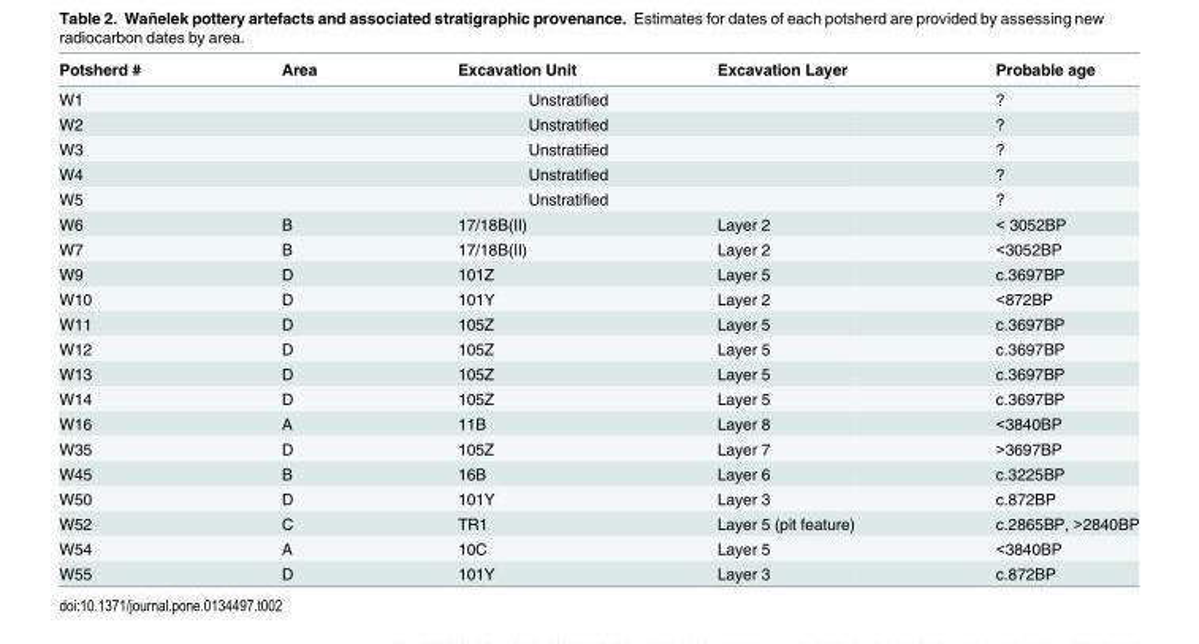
<table><thead><tr><td>Potsherd #</td><td>Area</td><td>Excavation Unit</td><td>Excavation Layer</td><td>Probable age</td></tr></thead><tbody><tr><td>W1</td><td colspan="3">Unstratified</td><td>?</td></tr><tr><td>W2</td><td colspan="3">Unstratified</td><td>?</td></tr><tr><td>W3</td><td colspan="3">Unstratified</td><td>?</td></tr><tr><td>W4</td><td colspan="3">Unstratified</td><td>?</td></tr><tr><td>W5</td><td colspan="3">Unstratified</td><td>?</td></tr><tr><td>W6</td><td>B</td><td>17/18B(II)</td><td>Layer 2</td><td>&lt; 3052BP</td></tr><tr><td>W7</td><td>B</td><td>17/18B(II)</td><td>Layer 2</td><td>&lt;3052BP</td></tr><tr><td>W9</td><td>D</td><td>101Z</td><td>Layer 5</td><td>c.3697BP</td></tr><tr><td>W10</td><td>D</td><td>101Y</td><td>Layer 2</td><td>&lt;872BP</td></tr><tr><td>W11</td><td>D</td><td>105Z</td><td>Layer 5</td><td>c.3697BP</td></tr><tr><td>W12</td><td>D</td><td>105Z</td><td>Layer 5</td><td>c.3697BP</td></tr><tr><td>W13</td><td>D</td><td>105Z</td><td>Layer 5</td><td>c.3697BP</td></tr><tr><td>W14</td><td>D</td><td>105Z</td><td>Layer 5</td><td>c.3697BP</td></tr><tr><td>W16</td><td>A</td><td>11B</td><td>Layer 8</td><td>&lt;3840BP</td></tr><tr><td>W35</td><td>D</td><td>105Z</td><td>Layer 7</td><td>&gt;3697BP</td></tr><tr><td>W45</td><td>B</td><td>16B</td><td>Layer 6</td><td>c.3225BP</td></tr><tr><td>W50</td><td>D</td><td>101Y</td><td>Layer 3</td><td>c.872BP</td></tr><tr><td>W52</td><td>C</td><td>TR1</td><td>Layer 5 (pit feature)</td><td>c.2865BP, &gt;2840BP</td></tr><tr><td>W54</td><td>A</td><td>10C</td><td>Layer 5</td><td>&lt;3840BP</td></tr><tr><td>W55</td><td>D</td><td>101Y</td><td>Layer 3</td><td>c.872BP</td></tr></tbody></table>